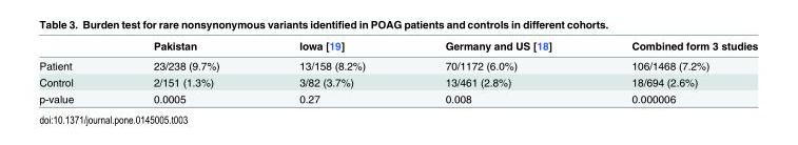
<table><thead><tr><td></td><td>Pakistan</td><td>Iowa [19]</td><td>Germany and US [18]</td><td>Combined form 3 studies</td></tr></thead><tbody><tr><td>Patient</td><td>23/238 (9.7%)</td><td>13/158 (8.2%)</td><td>70/1172 (6.0%)</td><td>106/1468 (7.2%)</td></tr><tr><td>Control</td><td>2/151 (1.3%)</td><td>3/82 (3.7%)</td><td>13/461 (2.8%)</td><td>18/694 (2.6%)</td></tr><tr><td>p-value</td><td>0.0005</td><td>0.27</td><td>0.008</td><td>0.000006</td></tr></tbody></table>